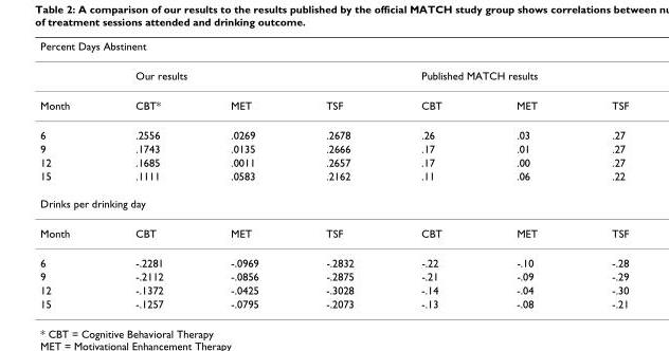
<table><thead><tr><td colspan="3">Percent Days Abstinent</td><td></td><td></td><td></td><td></td></tr><tr><td rowspan="2">Month</td><td colspan="3">Our results</td><td colspan="3">Published MATCH results</td></tr><tr><td>CBT*</td><td>MET</td><td>TSF</td><td>CBT</td><td>MET</td><td>TSF</td></tr></thead><tbody><tr><td>6</td><td>.2556</td><td>.0269</td><td>.2678</td><td>.26</td><td>.03</td><td>.27</td></tr><tr><td>9</td><td>.1743</td><td>.0135</td><td>.2666</td><td>.17</td><td>.01</td><td>.27</td></tr><tr><td>12</td><td>.1685</td><td>.0011</td><td>.2657</td><td>.17</td><td>.00</td><td>.27</td></tr><tr><td>15</td><td>.1111</td><td>.0583</td><td>.2162</td><td>.11</td><td>.06</td><td>.22</td></tr><tr><td colspan="7">Drinks per drinking day</td></tr><tr><td>Month</td><td>CBT</td><td>MET</td><td>TSF</td><td>CBT</td><td>MET</td><td>TSF</td></tr><tr><td>6</td><td>-.2281</td><td>-.0969</td><td>-.2832</td><td>-.22</td><td>-.10</td><td>-.28</td></tr><tr><td>9</td><td>-.2112</td><td>-.0856</td><td>-.2875</td><td>-.21</td><td>-.09</td><td>-.29</td></tr><tr><td>12</td><td>-.1372</td><td>-.0425</td><td>-.3028</td><td>-.14</td><td>-.04</td><td>-.30</td></tr><tr><td>15</td><td>-.1257</td><td>-.0795</td><td>-.2073</td><td>-.13</td><td>-.08</td><td>-.21</td></tr></tbody></table>